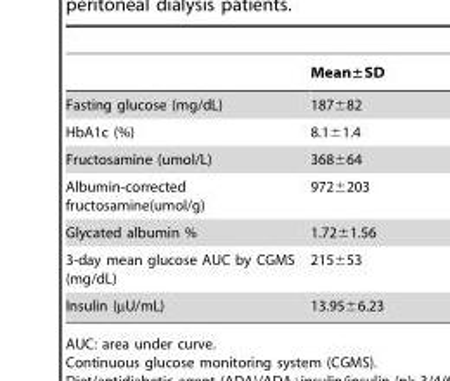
<table><thead><tr><td></td><td>Mean±SD</td></tr></thead><tbody><tr><td>Fasting glucose (mg/dL)</td><td>187±82</td></tr><tr><td>HbA1c (%)</td><td>8.1±1.4</td></tr><tr><td>Fructosamine (umol/L)</td><td>368±64</td></tr><tr><td>Albumin-corrected fructosamine(umol/g)</td><td>972±203</td></tr><tr><td>Glycated albumin %</td><td>1.72±1.56</td></tr><tr><td>3-day mean glucose AUC by CGMS (mg/dL)</td><td>215±53</td></tr><tr><td>Insulin (µU/mL)</td><td>13.95±6.23</td></tr></tbody></table>